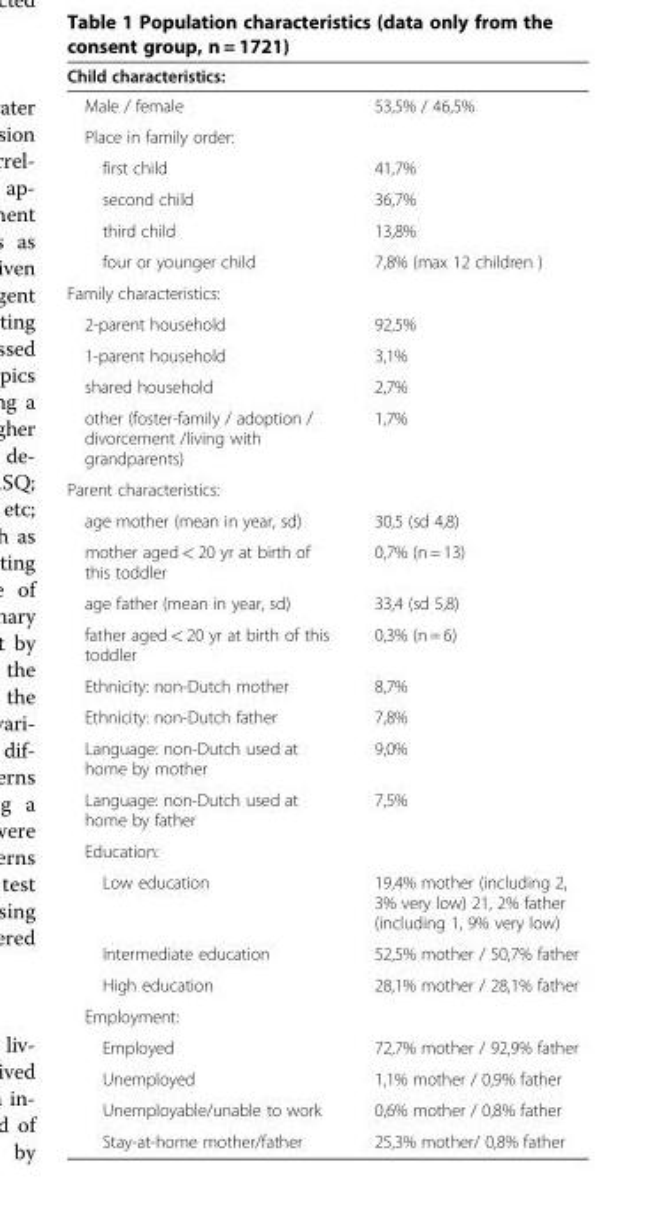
<table><thead><tr><td colspan="2">Child characteristics:</td></tr><tr><td>Male / female</td><td>53,5% / 46,5%</td></tr></thead><tbody><tr><td colspan="2">Place in family order:</td></tr><tr><td>first child</td><td>41,7%</td></tr><tr><td>second child</td><td>36,7%</td></tr><tr><td>third child</td><td>13,8%</td></tr><tr><td>four or younger child</td><td>7,8% (max 12 children )</td></tr><tr><td colspan="2">Family characteristics:</td></tr><tr><td>2-parent household</td><td>92,5%</td></tr><tr><td>1-parent household</td><td>3,1%</td></tr><tr><td>shared household</td><td>2,7%</td></tr><tr><td>other (foster-family / adoption / divorcement /living with grandparents)</td><td>1,7%</td></tr><tr><td colspan="2">Parent characteristics:</td></tr><tr><td>age mother (mean in year, sd)</td><td>30,5 (sd 4,8)</td></tr><tr><td>mother aged &lt; 20 yr at birth of this toddler</td><td>0,7% (n = 13)</td></tr><tr><td>age father (mean in year, sd)</td><td>33,4 (sd 5,8)</td></tr><tr><td>father aged &lt; 20 yr at birth of this toddler</td><td>0,3% (n = 6)</td></tr><tr><td>Ethnicity: non-Dutch mother</td><td>8,7%</td></tr><tr><td>Ethnicity: non-Dutch father</td><td>7,8%</td></tr><tr><td>Language: non-Dutch used at home by mother</td><td>9,0%</td></tr><tr><td>Language: non-Dutch used at home by father</td><td>7,5%</td></tr><tr><td colspan="2">Education:</td></tr><tr><td>Low education</td><td>19,4% mother (including 2, 3% very low) 21, 2% father (including 1, 9% very low)</td></tr><tr><td>Intermediate education</td><td>52,5% mother / 50,7% father</td></tr><tr><td>High education</td><td>28,1% mother / 28,1% father</td></tr><tr><td colspan="2">Employment:</td></tr><tr><td>Employed</td><td>72,7% mother / 92,9% father</td></tr><tr><td>Unemployed</td><td>1,1% mother / 0,9% father</td></tr><tr><td>Unemployable/unable to work</td><td>0,6% mother / 0,8% father</td></tr><tr><td>Stay-at-home mother/father</td><td>25,3% mother/ 0,8% father</td></tr></tbody></table>